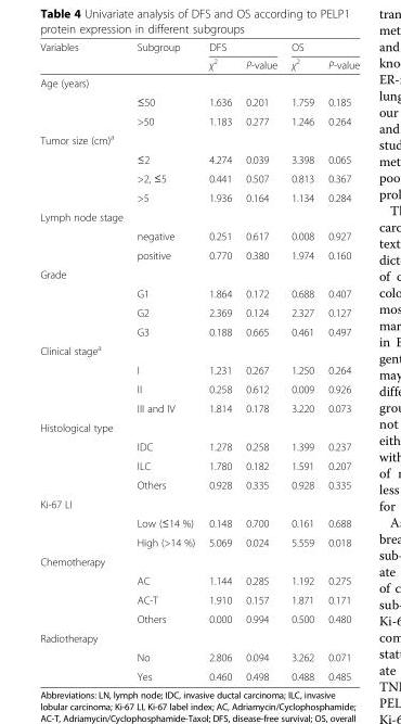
<table><thead><tr><td rowspan="2">Variables</td><td rowspan="2">Subgroup</td><td colspan="2">DFS</td><td colspan="2">OS</td></tr><tr><td>χ<sup>2</sup></td><td>P-value</td><td>χ<sup>2</sup></td><td>P-value</td></tr></thead><tbody><tr><td colspan="6">Age (years)</td></tr><tr><td></td><td>≤50</td><td>1.636</td><td>0.201</td><td>1.759</td><td>0.185</td></tr><tr><td></td><td>&gt;50</td><td>1.183</td><td>0.277</td><td>1.246</td><td>0.264</td></tr><tr><td colspan="6">Tumor size (cm)<sup>a</sup></td></tr><tr><td></td><td>≤2</td><td>4.274</td><td>0.039</td><td>3.398</td><td>0.065</td></tr><tr><td></td><td>&gt;2, ≤5</td><td>0.441</td><td>0.507</td><td>0.813</td><td>0.367</td></tr><tr><td></td><td>&gt;5</td><td>1.936</td><td>0.164</td><td>1.134</td><td>0.284</td></tr><tr><td colspan="6">Lymph node stage</td></tr><tr><td></td><td>negative</td><td>0.251</td><td>0.617</td><td>0.008</td><td>0.927</td></tr><tr><td></td><td>positive</td><td>0.770</td><td>0.380</td><td>1.974</td><td>0.160</td></tr><tr><td colspan="6">Grade</td></tr><tr><td></td><td>G1</td><td>1.864</td><td>0.172</td><td>0.688</td><td>0.407</td></tr><tr><td></td><td>G2</td><td>2.369</td><td>0.124</td><td>2.327</td><td>0.127</td></tr><tr><td></td><td>G3</td><td>0.188</td><td>0.665</td><td>0.461</td><td>0.497</td></tr><tr><td colspan="6">Clinical stage<sup>a</sup></td></tr><tr><td></td><td>I</td><td>1.231</td><td>0.267</td><td>1.250</td><td>0.264</td></tr><tr><td></td><td>II</td><td>0.258</td><td>0.612</td><td>0.009</td><td>0.926</td></tr><tr><td></td><td>III and IV</td><td>1.814</td><td>0.178</td><td>3.220</td><td>0.073</td></tr><tr><td colspan="6">Histological type</td></tr><tr><td></td><td>IDC</td><td>1.278</td><td>0.258</td><td>1.399</td><td>0.237</td></tr><tr><td></td><td>ILC</td><td>1.780</td><td>0.182</td><td>1.591</td><td>0.207</td></tr><tr><td></td><td>Others</td><td>0.928</td><td>0.335</td><td>0.928</td><td>0.335</td></tr><tr><td colspan="6">Ki-67 LI</td></tr><tr><td></td><td>Low (≤14 %)</td><td>0.148</td><td>0.700</td><td>0.161</td><td>0.688</td></tr><tr><td></td><td>High (&gt;14 %)</td><td>5.069</td><td>0.024</td><td>5.559</td><td>0.018</td></tr><tr><td colspan="6">Chemotherapy</td></tr><tr><td></td><td>AC</td><td>1.144</td><td>0.285</td><td>1.192</td><td>0.275</td></tr><tr><td></td><td>AC-T</td><td>1.910</td><td>0.157</td><td>1.871</td><td>0.171</td></tr><tr><td></td><td>Others</td><td>0.000</td><td>0.994</td><td>0.500</td><td>0.480</td></tr><tr><td colspan="6">Radiotherapy</td></tr><tr><td></td><td>No</td><td>2.806</td><td>0.094</td><td>3.262</td><td>0.071</td></tr><tr><td></td><td>Yes</td><td>0.460</td><td>0.498</td><td>0.488</td><td>0.485</td></tr></tbody></table>